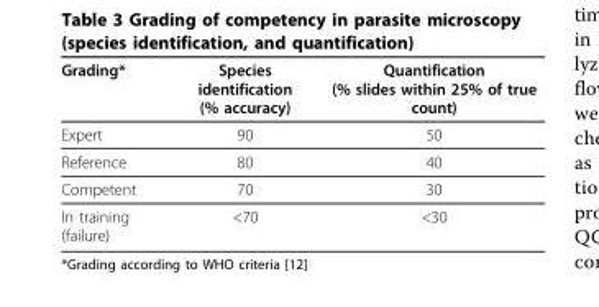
<table><thead><tr><td>Grading*</td><td>Species identification (% accuracy)</td><td>Quantification (% slides within 25% of true count)</td></tr></thead><tbody><tr><td>Expert</td><td>90</td><td>50</td></tr><tr><td>Reference</td><td>80</td><td>40</td></tr><tr><td>Competent</td><td>70</td><td>30</td></tr><tr><td>In training (failure)</td><td>&lt;70</td><td>&lt;30</td></tr></tbody></table>